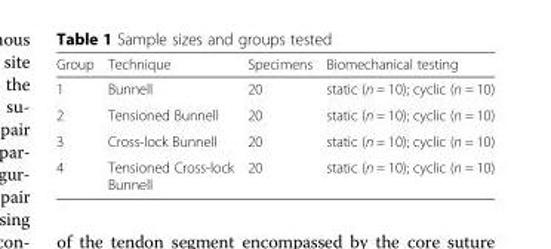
<table><thead><tr><td>Group</td><td>Technique</td><td>Specimens</td><td>Biomechanical testing</td></tr></thead><tbody><tr><td>1</td><td>Bunnell</td><td>20</td><td>static (n = 10); cyclic (n = 10)</td></tr><tr><td>2</td><td>Tensioned Bunnell</td><td>20</td><td>static (n = 10); cyclic (n = 10)</td></tr><tr><td>3</td><td>Cross-lock Bunnell</td><td>20</td><td>static (n = 10); cyclic (n = 10)</td></tr><tr><td>4</td><td>Tensioned Cross-lock Bunnell</td><td>20</td><td>static (n = 10); cyclic (n = 10)</td></tr></tbody></table>